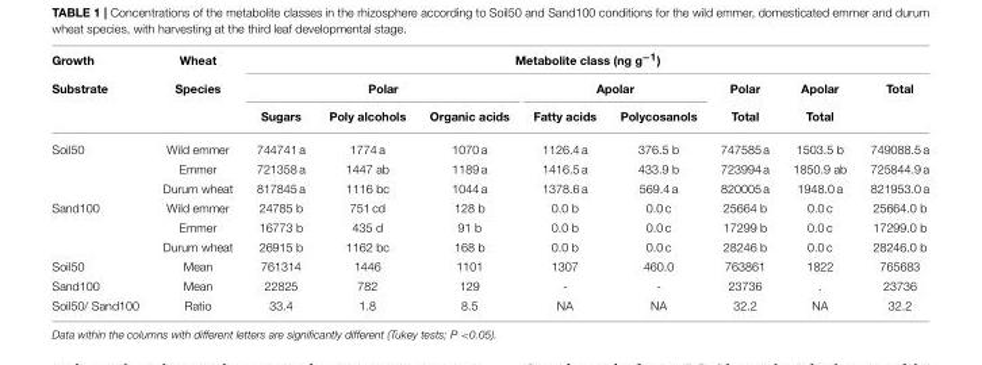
<table><thead><tr><td rowspan="3">Growth Substrate</td><td rowspan="3">Wheat Species</td><td colspan="8">Metabolite class (ng g<sup>−1</sup>)</td></tr><tr><td colspan="3">Polar</td><td colspan="2">Apolar</td><td rowspan="2">Polar Total</td><td rowspan="2">Apolar Total</td><td rowspan="2">Total</td></tr><tr><td>Sugars</td><td>Poly alcohols</td><td>Organic acids</td><td>Fatty acids</td><td>Polycosanols</td></tr></thead><tbody><tr><td rowspan="3">Soil50</td><td>Wild emmer</td><td>744741 a</td><td>1774 a</td><td>1070 a</td><td>1126.4 a</td><td>376.5 b</td><td>747585 a</td><td>1503.5 b</td><td>749088.5 a</td></tr><tr><td>Emmer</td><td>721358 a</td><td>1447 ab</td><td>1189 a</td><td>1416.5 a</td><td>433.9 b</td><td>723994 a</td><td>1850.9 ab</td><td>725844.9 a</td></tr><tr><td>Durum wheat</td><td>817845 a</td><td>1116 bc</td><td>1044 a</td><td>1378.6 a</td><td>569.4 a</td><td>820005 a</td><td>1948.0 a</td><td>821953.0 a</td></tr><tr><td rowspan="3">Sand100</td><td>Wild emmer</td><td>24785 b</td><td>751 cd</td><td>128 b</td><td>0.0 b</td><td>0.0 c</td><td>25664 b</td><td>0.0 c</td><td>25664.0 b</td></tr><tr><td>Emmer</td><td>16773 b</td><td>435 d</td><td>91 b</td><td>0.0 b</td><td>0.0 c</td><td>17299 b</td><td>0.0 c</td><td>17299.0 b</td></tr><tr><td>Durum wheat</td><td>26915 b</td><td>1162 bc</td><td>168 b</td><td>0.0 b</td><td>0.0 c</td><td>28246 b</td><td>0.0 c</td><td>28246.0 b</td></tr><tr><td>Soil50</td><td>Mean</td><td>761314</td><td>1446</td><td>1101</td><td>1307</td><td>460.0</td><td>763861</td><td>1822</td><td>765683</td></tr><tr><td>Sand100</td><td>Mean</td><td>22825</td><td>782</td><td>129</td><td>-</td><td>-</td><td>23736</td><td>.</td><td>23736</td></tr><tr><td>Soil50/ Sand100</td><td>Ratio</td><td>33.4</td><td>1.8</td><td>8.5</td><td>NA</td><td>NA</td><td>32.2</td><td>NA</td><td>32.2</td></tr></tbody></table>